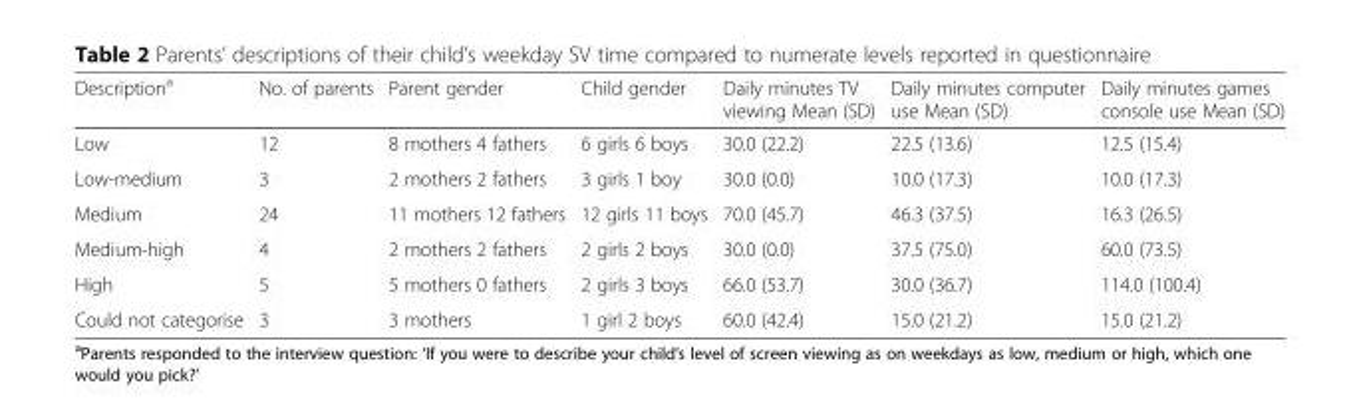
<table><thead><tr><td>Description<sup>a</sup></td><td>No. of parents</td><td>Parent gender</td><td>Child gender</td><td>Daily minutes TV viewing Mean (SD)</td><td>Daily minutes computer use Mean (SD)</td><td>Daily minutes games console use Mean (SD)</td></tr></thead><tbody><tr><td>Low</td><td>12</td><td>8 mothers 4 fathers</td><td>6 girls 6 boys</td><td>30.0 (22.2)</td><td>22.5 (13.6)</td><td>12.5 (15.4)</td></tr><tr><td>Low-medium</td><td>3</td><td>2 mothers 2 fathers</td><td>3 girls 1 boy</td><td>30.0 (0.0)</td><td>10.0 (17.3)</td><td>10.0 (17.3)</td></tr><tr><td>Medium</td><td>24</td><td>11 mothers 12 fathers</td><td>12 girls 11 boys</td><td>70.0 (45.7)</td><td>46.3 (37.5)</td><td>16.3 (26.5)</td></tr><tr><td>Medium-high</td><td>4</td><td>2 mothers 2 fathers</td><td>2 girls 2 boys</td><td>30.0 (0.0)</td><td>37.5 (75.0)</td><td>60.0 (73.5)</td></tr><tr><td>High</td><td>5</td><td>5 mothers 0 fathers</td><td>2 girls 3 boys</td><td>66.0 (53.7)</td><td>30.0 (36.7)</td><td>114.0 (100.4)</td></tr><tr><td>Could not categorise</td><td>3</td><td>3 mothers</td><td>1 girl 2 boys</td><td>60.0 (42.4)</td><td>15.0 (21.2)</td><td>15.0 (21.2)</td></tr></tbody></table>